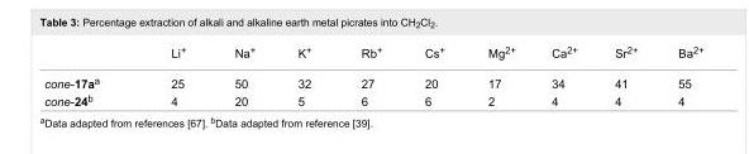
<table><thead><tr><td></td><td>Li<sup>+</sup></td><td>Na<sup>+</sup></td><td>K<sup>+</sup></td><td>Rb<sup>+</sup></td><td>Cs<sup>+</sup></td><td>Mg<sup>2+</sup></td><td>Ca<sup>2+</sup></td><td>Sr<sup>2+</sup></td><td>Ba<sup>2+</sup></td></tr></thead><tbody><tr><td>cone-17a<sup>a</sup></td><td>25</td><td>50</td><td>32</td><td>27</td><td>20</td><td>17</td><td>34</td><td>41</td><td>55</td></tr><tr><td>cone-24<sup>b</sup></td><td>4</td><td>20</td><td>5</td><td>6</td><td>6</td><td>2</td><td>4</td><td>4</td><td>4</td></tr></tbody></table>